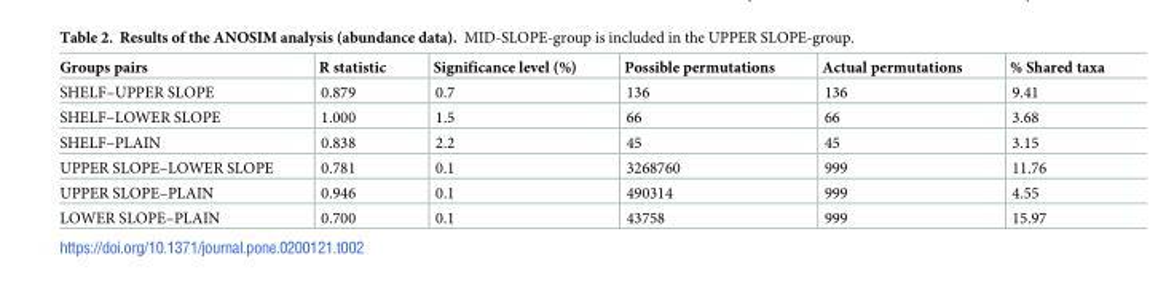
<table><thead><tr><td>Groups pairs</td><td>R statistic</td><td>Significance level (%)</td><td>Possible permutations</td><td>Actual permutations</td><td>% Shared taxa</td></tr></thead><tbody><tr><td>SHELF–UPPER SLOPE</td><td>0.879</td><td>0.7</td><td>136</td><td>136</td><td>9.41</td></tr><tr><td>SHELF–LOWER SLOPE</td><td>1.000</td><td>1.5</td><td>66</td><td>66</td><td>3.68</td></tr><tr><td>SHELF–PLAIN</td><td>0.838</td><td>2.2</td><td>45</td><td>45</td><td>3.15</td></tr><tr><td>UPPER SLOPE–LOWER SLOPE</td><td>0.781</td><td>0.1</td><td>3268760</td><td>999</td><td>11.76</td></tr><tr><td>UPPER SLOPE–PLAIN</td><td>0.946</td><td>0.1</td><td>490314</td><td>999</td><td>4.55</td></tr><tr><td>LOWER SLOPE–PLAIN</td><td>0.700</td><td>0.1</td><td>43758</td><td>999</td><td>15.97</td></tr></tbody></table>